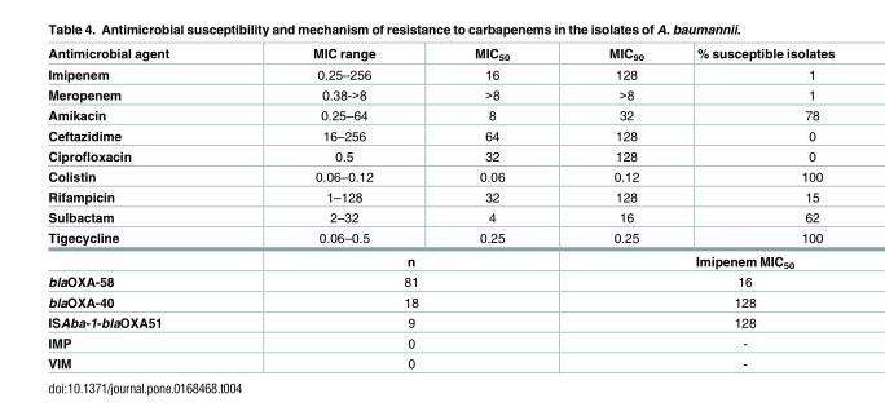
<table><thead><tr><td>Antimicrobial agent</td><td>MIC range</td><td>MIC<sub>50</sub></td><td>MIC<sub>90</sub></td><td>% susceptible isolates</td></tr></thead><tbody><tr><td>Imipenem</td><td>0.25–256</td><td>16</td><td>128</td><td>1</td></tr><tr><td>Meropenem</td><td>0.38-&gt;8</td><td>&gt;8</td><td>&gt;8</td><td>1</td></tr><tr><td>Amikacin</td><td>0.25–64</td><td>8</td><td>32</td><td>78</td></tr><tr><td>Ceftazidime</td><td>16–256</td><td>64</td><td>128</td><td>0</td></tr><tr><td>Ciprofloxacin</td><td>0.5</td><td>32</td><td>128</td><td>0</td></tr><tr><td>Colistin</td><td>0.06–0.12</td><td>0.06</td><td>0.12</td><td>100</td></tr><tr><td>Rifampicin</td><td>1–128</td><td>32</td><td>128</td><td>15</td></tr><tr><td>Sulbactam</td><td>2–32</td><td>4</td><td>16</td><td>62</td></tr><tr><td rowspan="2">Tigecycline</td><td>0.06–0.5</td><td>0.25</td><td>0.25</td><td>100</td></tr><tr><td colspan="2">n</td><td colspan="2">Imipenem MIC<sub>50</sub></td></tr><tr><td>blaOXA-58</td><td colspan="2">81</td><td colspan="2">16</td></tr><tr><td>blaOXA-40</td><td colspan="2">18</td><td colspan="2">128</td></tr><tr><td>ISAba-1-blaOXA51</td><td colspan="2">9</td><td colspan="2">128</td></tr><tr><td>IMP</td><td colspan="2">0</td><td colspan="2">-</td></tr><tr><td>VIM</td><td colspan="2">0</td><td colspan="2">-</td></tr></tbody></table>